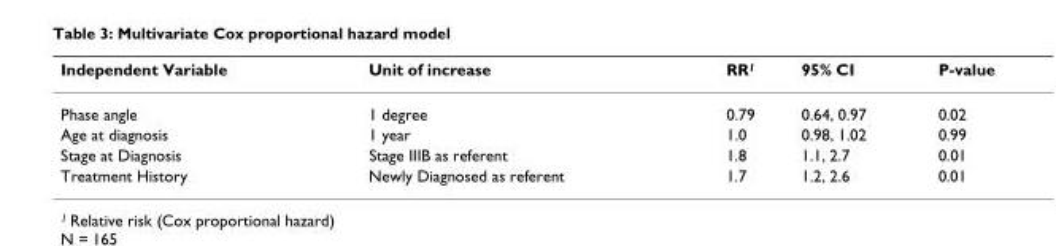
<table><thead><tr><td>Independent Variable</td><td>Unit of increase</td><td>RR<sup>1</sup></td><td>95% CI</td><td>P-value</td></tr></thead><tbody><tr><td>Phase angle</td><td>1 degree</td><td>0.79</td><td>0.64, 0.97</td><td>0.02</td></tr><tr><td>Age at diagnosis</td><td>1 year</td><td>1.0</td><td>0.98, 1.02</td><td>0.99</td></tr><tr><td>Stage at Diagnosis</td><td>Stage IIIB as referent</td><td>1.8</td><td>1.1, 2.7</td><td>0.01</td></tr><tr><td>Treatment History</td><td>Newly Diagnosed as referent</td><td>1.7</td><td>1.2, 2.6</td><td>0.01</td></tr></tbody></table>